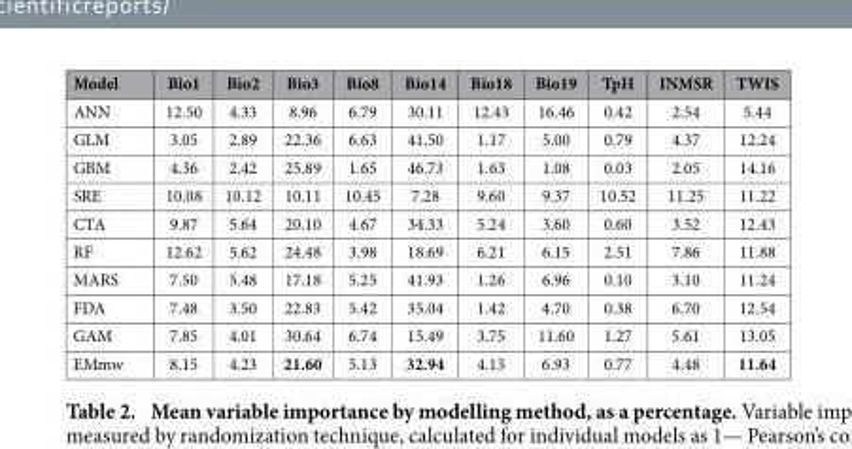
<table><thead><tr><td>Model</td><td>Bio1</td><td>Bio2</td><td>Bio3</td><td>Bio8</td><td>Bio14</td><td>Bio18</td><td>Bio19</td><td>TpH</td><td>INMSR</td><td>TWIS</td></tr></thead><tbody><tr><td>ANN</td><td>12.50</td><td>4.33</td><td>8.96</td><td>6.79</td><td>30.11</td><td>12.43</td><td>16.46</td><td>0.42</td><td>2.54</td><td>5.44</td></tr><tr><td>GLM</td><td>3.05</td><td>2.89</td><td>22.36</td><td>6.63</td><td>41.50</td><td>1.17</td><td>5.00</td><td>0.79</td><td>4.37</td><td>12.24</td></tr><tr><td>GBM</td><td>4.36</td><td>2.42</td><td>25.89</td><td>1.65</td><td>46.73</td><td>1.63</td><td>1.08</td><td>0.03</td><td>2.05</td><td>14.16</td></tr><tr><td>SRE</td><td>10.08</td><td>10.12</td><td>10.11</td><td>10.45</td><td>7.28</td><td>9.60</td><td>9.37</td><td>10.52</td><td>11.25</td><td>11.22</td></tr><tr><td>CTA</td><td>9.87</td><td>5.64</td><td>20.10</td><td>4.67</td><td>34.33</td><td>5.24</td><td>3.60</td><td>0.60</td><td>3.52</td><td>12.43</td></tr><tr><td>RF</td><td>12.62</td><td>5.62</td><td>24.48</td><td>3.98</td><td>18.69</td><td>6.21</td><td>6.15</td><td>2.51</td><td>7.86</td><td>11.88</td></tr><tr><td>MARS</td><td>7.50</td><td>5.48</td><td>17.18</td><td>5.25</td><td>41.93</td><td>1.26</td><td>6.96</td><td>0.10</td><td>3.10</td><td>11.24</td></tr><tr><td>FDA</td><td>7.48</td><td>3.50</td><td>22.83</td><td>5.42</td><td>35.04</td><td>1.42</td><td>4.70</td><td>0.38</td><td>6.70</td><td>12.54</td></tr><tr><td>GAM</td><td>7.85</td><td>4.01</td><td>30.64</td><td>6.74</td><td>15.49</td><td>3.75</td><td>11.60</td><td>1.27</td><td>5.61</td><td>13.05</td></tr><tr><td>EMmw</td><td>8.15</td><td>4.23</td><td>21.60</td><td>5.13</td><td>32.94</td><td>4.13</td><td>6.93</td><td>0.77</td><td>4.48</td><td>11.64</td></tr></tbody></table>